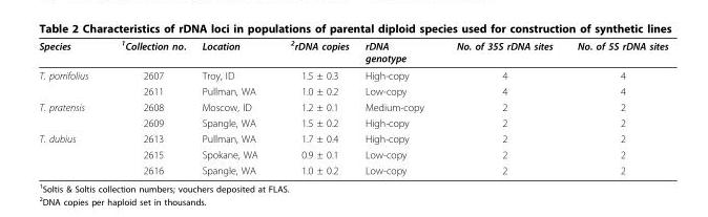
<table><thead><tr><td>Species</td><td><sup>1</sup>Collection no.</td><td>Location</td><td><sup>2</sup>rDNA copies</td><td>rDNA genotype</td><td>No. of 35S rDNA sites</td><td>No. of 5S rDNA sites</td></tr></thead><tbody><tr><td rowspan="2">T. porrifolius</td><td>2607</td><td>Troy, ID</td><td>1.5 ± 0.3</td><td>High-copy</td><td>4</td><td>4</td></tr><tr><td>2611</td><td>Pullman, WA</td><td>1.0 ± 0.2</td><td>Low-copy</td><td>4</td><td>4</td></tr><tr><td rowspan="2">T. pratensis</td><td>2608</td><td>Moscow, ID</td><td>1.2 ± 0.1</td><td>Medium-copy</td><td>2</td><td>2</td></tr><tr><td>2609</td><td>Spangle, WA</td><td>1.5 ± 0.2</td><td>High-copy</td><td>2</td><td>2</td></tr><tr><td rowspan="3">T. dubius</td><td>2613</td><td>Pullman, WA</td><td>1.7 ± 0.4</td><td>High-copy</td><td>2</td><td>2</td></tr><tr><td>2615</td><td>Spokane, WA</td><td>0.9 ± 0.1</td><td>Low-copy</td><td>2</td><td>2</td></tr><tr><td>2616</td><td>Spangle, WA</td><td>1.0 ± 0.2</td><td>Low-copy</td><td>2</td><td>2</td></tr></tbody></table>